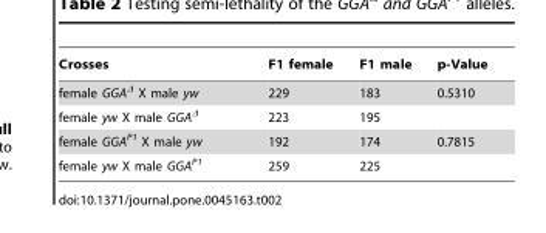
<table><thead><tr><td>Crosses</td><td>F1 female</td><td>F1 male</td><td>p-Value</td></tr></thead><tbody><tr><td>female GGA<sup>Δ</sup> X male yw</td><td>229</td><td>183</td><td>0.5310</td></tr><tr><td>female yw X male GGA<sup>Δ</sup></td><td>223</td><td>195</td><td></td></tr><tr><td>female GGA<sup>P1</sup> X male yw</td><td>192</td><td>174</td><td>0.7815</td></tr><tr><td>female yw X male GGA<sup>P1</sup></td><td>259</td><td>225</td><td></td></tr></tbody></table>